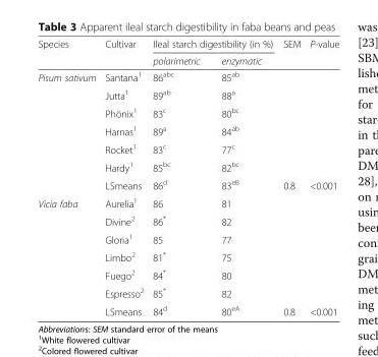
<table><thead><tr><td rowspan="2">Species</td><td rowspan="2">Cultivar</td><td colspan="2">Ileal starch digestibility (in %)</td><td rowspan="2">SEM</td><td rowspan="2">P-value</td></tr><tr><td>polarimetric</td><td>enzymatic</td></tr></thead><tbody><tr><td rowspan="7">Pisum sativum</td><td>Santana<sup>1</sup></td><td>86<sup>abc</sup></td><td>85<sup>ab</sup></td><td></td><td></td></tr><tr><td>Jutta<sup>1</sup></td><td>89<sup>ab</sup></td><td>88<sup>a</sup></td><td></td><td></td></tr><tr><td>Phönix<sup>1</sup></td><td>83<sup>c</sup></td><td>80<sup>bc</sup></td><td></td><td></td></tr><tr><td>Harnas<sup>1</sup></td><td>89<sup>a</sup></td><td>84<sup>ab</sup></td><td></td><td></td></tr><tr><td>Rocket<sup>1</sup></td><td>83<sup>c</sup></td><td>77<sup>c</sup></td><td></td><td></td></tr><tr><td>Hardy<sup>1</sup></td><td>85<sup>bc</sup></td><td>82<sup>bc</sup></td><td></td><td></td></tr><tr><td>LSmeans</td><td>86<sup>d</sup></td><td>83<sup>eB</sup></td><td>0.8</td><td>&lt;0.001</td></tr><tr><td rowspan="7">Vicia faba</td><td>Aurelia<sup>1</sup></td><td>86</td><td>81</td><td></td><td></td></tr><tr><td>Divine<sup>2</sup></td><td>86*</td><td>82</td><td></td><td></td></tr><tr><td>Gloria<sup>1</sup></td><td>85</td><td>77</td><td></td><td></td></tr><tr><td>Limbo<sup>2</sup></td><td>81*</td><td>75</td><td></td><td></td></tr><tr><td>Fuego<sup>2</sup></td><td>84*</td><td>80</td><td></td><td></td></tr><tr><td>Espresso<sup>2</sup></td><td>85*</td><td>82</td><td></td><td></td></tr><tr><td>LSmeans</td><td>84<sup>d</sup></td><td>80<sup>eA</sup></td><td>0.8</td><td>&lt;0.001</td></tr></tbody></table>